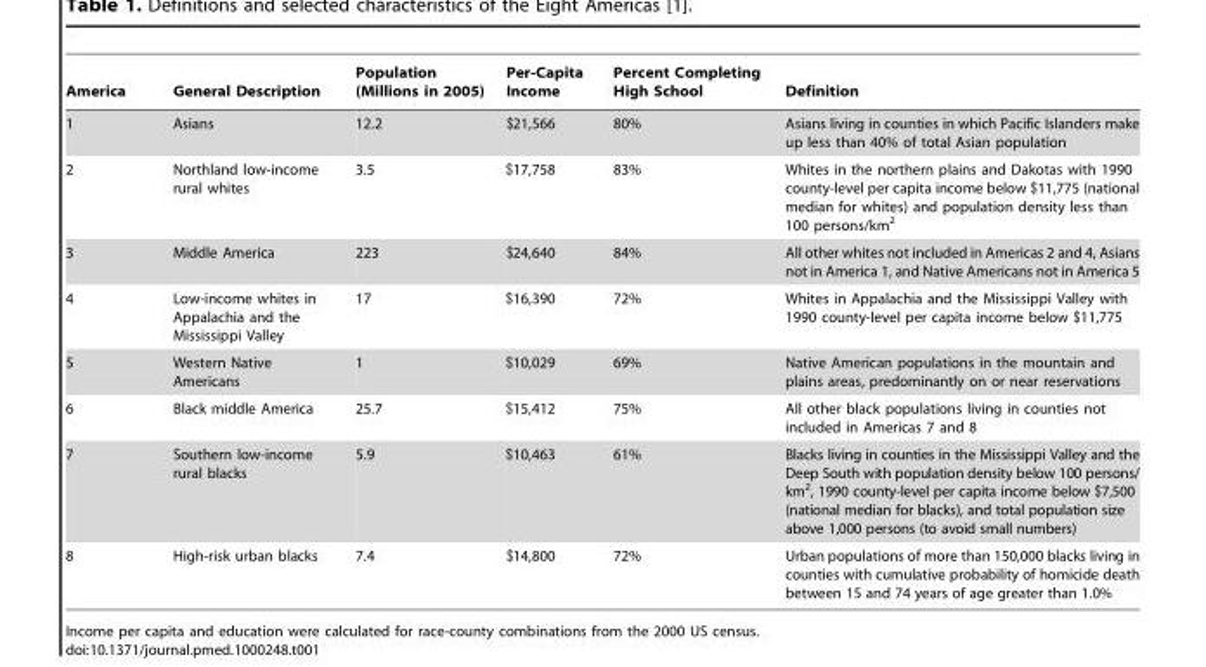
<table><thead><tr><td>America</td><td>General Description</td><td>Population (Millions in 2005)</td><td>Per-Capita Income</td><td>Percent Completing High School</td><td>Definition</td></tr></thead><tbody><tr><td>1</td><td>Asians</td><td>12.2</td><td>$21,566</td><td>80%</td><td>Asians living in counties in which Pacific Islanders make up less than 40% of total Asian population</td></tr><tr><td>2</td><td>Northland low-income rural whites</td><td>3.5</td><td>$17,758</td><td>83%</td><td>Whites in the northern plains and Dakotas with 1990 county-level per capita income below $11,775 (national median for whites) and population density less than 100 persons/km<sup>2</sup></td></tr><tr><td>3</td><td>Middle America</td><td>223</td><td>$24,640</td><td>84%</td><td>All other whites not included in Americas 2 and 4, Asians not in America 1, and Native Americans not in America 5</td></tr><tr><td>4</td><td>Low-income whites in Appalachia and the Mississippi Valley</td><td>17</td><td>$16,390</td><td>72%</td><td>Whites in Appalachia and the Mississippi Valley with 1990 county-level per capita income below $11,775</td></tr><tr><td>5</td><td>Western Native Americans</td><td>1</td><td>$10,029</td><td>69%</td><td>Native American populations in the mountain and plains areas, predominantly on or near reservations</td></tr><tr><td>6</td><td>Black middle America</td><td>25.7</td><td>$15,412</td><td>75%</td><td>All other black populations living in counties not included in Americas 7 and 8</td></tr><tr><td>7</td><td>Southern low-income rural blacks</td><td>5.9</td><td>$10,463</td><td>61%</td><td>Blacks living in counties in the Mississippi Valley and the Deep South with population density below 100 persons/ km<sup>2</sup>, 1990 county-level per capita income below $7,500 (national median for blacks), and total population size above 1,000 persons (to avoid small numbers)</td></tr><tr><td>8</td><td>High-risk urban blacks</td><td>7.4</td><td>$14,800</td><td>72%</td><td>Urban populations of more than 150,000 blacks living in counties with cumulative probability of homicide death between 15 and 74 years of age greater than 1.0%</td></tr></tbody></table>